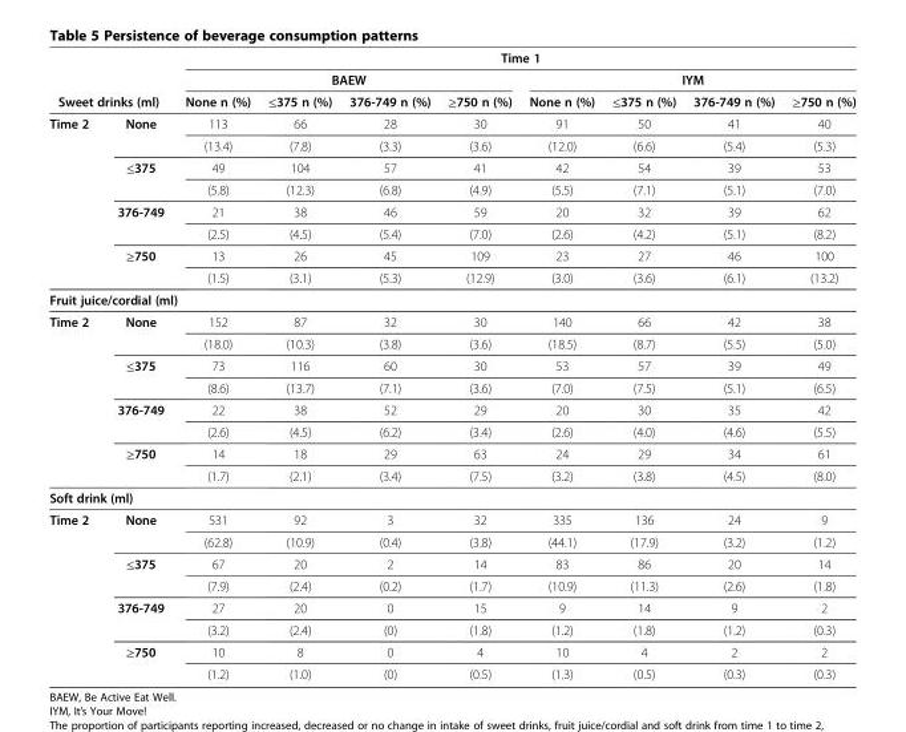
<table><thead><tr><td rowspan="2"></td><td rowspan="2"></td><td colspan="8">Time 1</td></tr><tr><td colspan="4">BAEW</td><td colspan="4">IYM</td></tr><tr><td colspan="2">Sweet drinks (ml)</td><td>None n (%)</td><td>≤375 n (%)</td><td>376-749 n (%)</td><td>≥750 n (%)</td><td>None n (%)</td><td>≤375 n (%)</td><td>376-749 n (%)</td><td>≥750 n (%)</td></tr></thead><tbody><tr><td rowspan="8">Time 2</td><td>None</td><td>113</td><td>66</td><td>28</td><td>30</td><td>91</td><td>50</td><td>41</td><td>40</td></tr><tr><td></td><td>(13.4)</td><td>(7.8)</td><td>(3.3)</td><td>(3.6)</td><td>(12.0)</td><td>(6.6)</td><td>(5.4)</td><td>(5.3)</td></tr><tr><td>≤375</td><td>49</td><td>104</td><td>57</td><td>41</td><td>42</td><td>54</td><td>39</td><td>53</td></tr><tr><td></td><td>(5.8)</td><td>(12.3)</td><td>(6.8)</td><td>(4.9)</td><td>(5.5)</td><td>(7.1)</td><td>(5.1)</td><td>(7.0)</td></tr><tr><td>376-749</td><td>21</td><td>38</td><td>46</td><td>59</td><td>20</td><td>32</td><td>39</td><td>62</td></tr><tr><td></td><td>(2.5)</td><td>(4.5)</td><td>(5.4)</td><td>(7.0)</td><td>(2.6)</td><td>(4.2)</td><td>(5.1)</td><td>(8.2)</td></tr><tr><td>≥750</td><td>13</td><td>26</td><td>45</td><td>109</td><td>23</td><td>27</td><td>46</td><td>100</td></tr><tr><td></td><td>(1.5)</td><td>(3.1)</td><td>(5.3)</td><td>(12.9)</td><td>(3.0)</td><td>(3.6)</td><td>(6.1)</td><td>(13.2)</td></tr><tr><td colspan="10">Fruit juice/cordial (ml)</td></tr><tr><td rowspan="8">Time 2</td><td>None</td><td>152</td><td>87</td><td>32</td><td>30</td><td>140</td><td>66</td><td>42</td><td>38</td></tr><tr><td></td><td>(18.0)</td><td>(10.3)</td><td>(3.8)</td><td>(3.6)</td><td>(18.5)</td><td>(8.7)</td><td>(5.5)</td><td>(5.0)</td></tr><tr><td>≤375</td><td>73</td><td>116</td><td>60</td><td>30</td><td>53</td><td>57</td><td>39</td><td>49</td></tr><tr><td></td><td>(8.6)</td><td>(13.7)</td><td>(7.1)</td><td>(3.6)</td><td>(7.0)</td><td>(7.5)</td><td>(5.1)</td><td>(6.5)</td></tr><tr><td>376-749</td><td>22</td><td>38</td><td>52</td><td>29</td><td>20</td><td>30</td><td>35</td><td>42</td></tr><tr><td></td><td>(2.6)</td><td>(4.5)</td><td>(6.2)</td><td>(3.4)</td><td>(2.6)</td><td>(4.0)</td><td>(4.6)</td><td>(5.5)</td></tr><tr><td>≥750</td><td>14</td><td>18</td><td>29</td><td>63</td><td>24</td><td>29</td><td>34</td><td>61</td></tr><tr><td></td><td>(1.7)</td><td>(2.1)</td><td>(3.4)</td><td>(7.5)</td><td>(3.2)</td><td>(3.8)</td><td>(4.5)</td><td>(8.0)</td></tr><tr><td colspan="10">Soft drink (ml)</td></tr><tr><td rowspan="8">Time 2</td><td>None</td><td>531</td><td>92</td><td>3</td><td>32</td><td>335</td><td>136</td><td>24</td><td>9</td></tr><tr><td></td><td>(62.8)</td><td>(10.9)</td><td>(0.4)</td><td>(3.8)</td><td>(44.1)</td><td>(17.9)</td><td>(3.2)</td><td>(1.2)</td></tr><tr><td>≤375</td><td>67</td><td>20</td><td>2</td><td>14</td><td>83</td><td>86</td><td>20</td><td>14</td></tr><tr><td></td><td>(7.9)</td><td>(2.4)</td><td>(0.2)</td><td>(1.7)</td><td>(10.9)</td><td>(11.3)</td><td>(2.6)</td><td>(1.8)</td></tr><tr><td>376-749</td><td>27</td><td>20</td><td>0</td><td>15</td><td>9</td><td>14</td><td>9</td><td>2</td></tr><tr><td></td><td>(3.2)</td><td>(2.4)</td><td>(0)</td><td>(1.8)</td><td>(1.2)</td><td>(1.8)</td><td>(1.2)</td><td>(0.3)</td></tr><tr><td>≥750</td><td>10</td><td>8</td><td>0</td><td>4</td><td>10</td><td>4</td><td>2</td><td>2</td></tr><tr><td></td><td>(1.2)</td><td>(1.0)</td><td>(0)</td><td>(0.5)</td><td>(1.3)</td><td>(0.5)</td><td>(0.3)</td><td>(0.3)</td></tr></tbody></table>